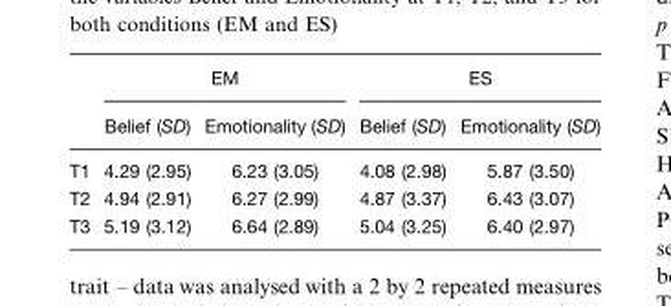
<table><thead><tr><td rowspan="2"></td><td colspan="2">EM</td><td colspan="2">ES</td></tr><tr><td>Belief (SD)</td><td>Emotionality (SD)</td><td>Belief (SD)</td><td>Emotionality (SD)</td></tr></thead><tbody><tr><td>T1</td><td>4.29 (2.95)</td><td>6.23 (3.05)</td><td>4.08 (2.98)</td><td>5.87 (3.50)</td></tr><tr><td>T2</td><td>4.94 (2.91)</td><td>6.27 (2.99)</td><td>4.87 (3.37)</td><td>6.43 (3.07)</td></tr><tr><td>T3</td><td>5.19 (3.12)</td><td>6.64 (2.89)</td><td>5.04 (3.25)</td><td>6.40 (2.97)</td></tr></tbody></table>